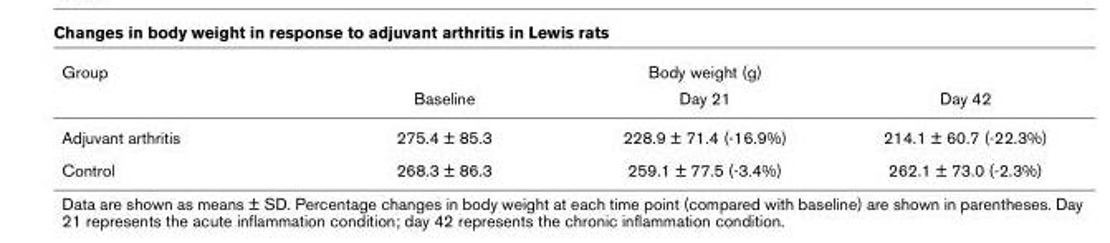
<table><thead><tr><td rowspan="2">Group</td><td colspan="3">Body weight (g)</td></tr><tr><td>Baseline</td><td>Day 21</td><td>Day 42</td></tr></thead><tbody><tr><td>Adjuvant arthritis</td><td>275.4 ± 85.3</td><td>228.9 ± 71.4 (-16.9%)</td><td>214.1 ± 60.7 (-22.3%)</td></tr><tr><td>Control</td><td>268.3 ± 86.3</td><td>259.1 ± 77.5 (-3.4%)</td><td>262.1 ± 73.0 (-2.3%)</td></tr></tbody></table>